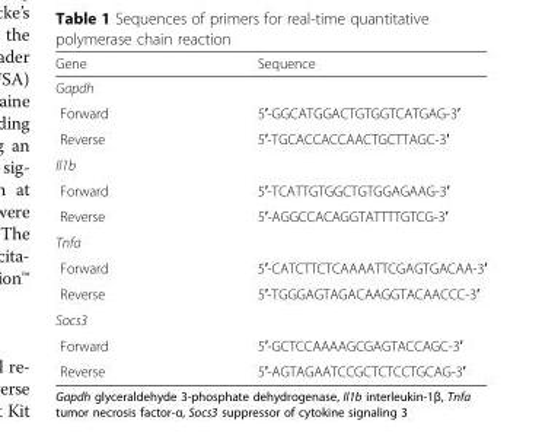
<table><thead><tr><td>Gene</td><td>Sequence</td></tr></thead><tbody><tr><td colspan="2">Gapdh</td></tr><tr><td>Forward</td><td>5′-GGCATGGACTGTGGTCATGAG-3′</td></tr><tr><td>Reverse</td><td>5′-TGCACCACCAACTGCTTAGC-3′</td></tr><tr><td colspan="2">Il1b</td></tr><tr><td>Forward</td><td>5′-TCATTGTGGCTGTGGAGAAG-3′</td></tr><tr><td>Reverse</td><td>5′-AGGCCACAGGTATTTTGTCG-3′</td></tr><tr><td colspan="2">Tnfa</td></tr><tr><td>Forward</td><td>5′-CATCTTCTCAAAATTCGAGTGACAA-3′</td></tr><tr><td>Reverse</td><td>5′-TGGGAGTAGACAAGGTACAACCC-3′</td></tr><tr><td colspan="2">Socs3</td></tr><tr><td>Forward</td><td>5′-GCTCCAAAAGCGAGTACCAGC-3′</td></tr><tr><td>Reverse</td><td>5′-AGTAGAATCCGCTCTCCTGCAG-3′</td></tr></tbody></table>